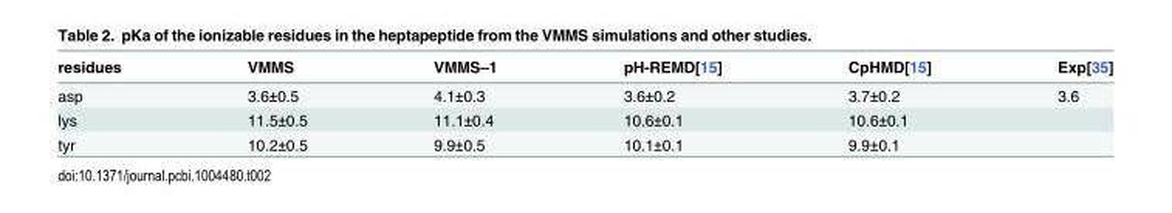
<table><thead><tr><td>residues</td><td>VMMS</td><td>VMMS–1</td><td>pH-REMD[15]</td><td>CpHMD[15]</td><td>Exp[35]</td></tr></thead><tbody><tr><td>asp</td><td>3.6±0.5</td><td>4.1±0.3</td><td>3.6±0.2</td><td>3.7±0.2</td><td>3.6</td></tr><tr><td>lys</td><td>11.5±0.5</td><td>11.1±0.4</td><td>10.6±0.1</td><td>10.6±0.1</td><td></td></tr><tr><td>tyr</td><td>10.2±0.5</td><td>9.9±0.5</td><td>10.1±0.1</td><td>9.9±0.1</td><td></td></tr></tbody></table>